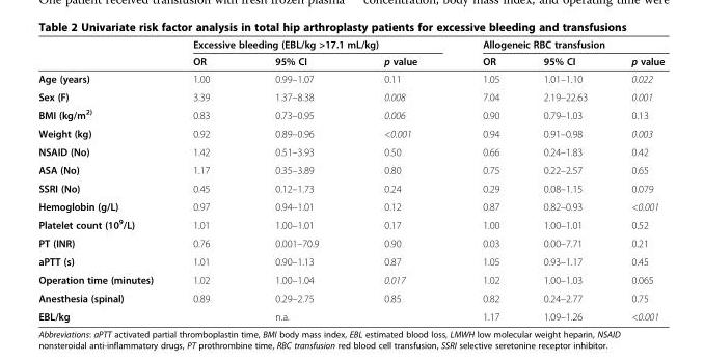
<table><thead><tr><td rowspan="2"></td><td colspan="3">Excessive bleeding (EBL/kg &gt;17.1 mL/kg)</td><td colspan="3">Allogeneic RBC transfusion</td></tr><tr><td>OR</td><td>95% CI</td><td>p value</td><td>OR</td><td>95% CI</td><td>p value</td></tr></thead><tbody><tr><td>Age (years)</td><td>1.00</td><td>0.99–1.07</td><td>0.11</td><td>1.05</td><td>1.01–1.10</td><td>0.022</td></tr><tr><td>Sex (F)</td><td>3.39</td><td>1.37–8.38</td><td>0.008</td><td>7.04</td><td>2.19–22.63</td><td>0.001</td></tr><tr><td>BMI (kg/m<sup>2)</sup></td><td>0.83</td><td>0.73–0.95</td><td>0.006</td><td>0.90</td><td>0.79–1.03</td><td>0.13</td></tr><tr><td>Weight (kg)</td><td>0.92</td><td>0.89–0.96</td><td>&lt;0.001</td><td>0.94</td><td>0.91–0.98</td><td>0.003</td></tr><tr><td>NSAID (No)</td><td>1.42</td><td>0.51–3.93</td><td>0.50</td><td>0.66</td><td>0.24–1.83</td><td>0.42</td></tr><tr><td>ASA (No)</td><td>1.17</td><td>0.35–3.89</td><td>0.80</td><td>0.75</td><td>0.22–2.57</td><td>0.65</td></tr><tr><td>SSRI (No)</td><td>0.45</td><td>0.12–1.73</td><td>0.24</td><td>0.29</td><td>0.08–1.15</td><td>0.079</td></tr><tr><td>Hemoglobin (g/L)</td><td>0.97</td><td>0.94–1.01</td><td>0.12</td><td>0.87</td><td>0.82–0.93</td><td>&lt;0.001</td></tr><tr><td>Platelet count (10<sup>9</sup>/L)</td><td>1.01</td><td>1.00–1.01</td><td>0.17</td><td>1.00</td><td>1.00–1.01</td><td>0.52</td></tr><tr><td>PT (INR)</td><td>0.76</td><td>0.001–70.9</td><td>0.90</td><td>0.03</td><td>0.00–7.71</td><td>0.21</td></tr><tr><td>aPTT (s)</td><td>1.01</td><td>0.90–1.13</td><td>0.87</td><td>1.05</td><td>0.93–1.17</td><td>0.45</td></tr><tr><td>Operation time (minutes)</td><td>1.02</td><td>1.00–1.04</td><td>0.017</td><td>1.02</td><td>1.00–1.03</td><td>0.065</td></tr><tr><td>Anesthesia (spinal)</td><td>0.89</td><td>0.29–2.75</td><td>0.85</td><td>0.82</td><td>0.24–2.77</td><td>0.75</td></tr><tr><td>EBL/kg</td><td></td><td>n.a.</td><td></td><td>1.17</td><td>1.09–1.26</td><td>&lt;0.001</td></tr></tbody></table>